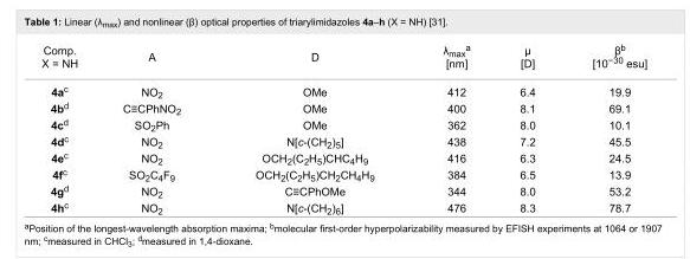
<table><tbody><tr><td>Comp. X = NH</td><td>A</td><td>D</td><td>λ<sub>max</sub><sup>a</sup> [nm]</td><td>μ [D]</td><td>β<sup>b</sup> [10<sup>−30</sup> esu]</td></tr><tr><td>4a<sup>c</sup></td><td>NO<sub>2</sub></td><td>OMe</td><td>412</td><td>6.4</td><td>19.9</td></tr><tr><td>4b<sup>d</sup></td><td>C≡CPhNO<sub>2</sub></td><td>OMe</td><td>400</td><td>8.1</td><td>69.1</td></tr><tr><td>4c<sup>d</sup></td><td>SO<sub>2</sub>Ph</td><td>OMe</td><td>362</td><td>8.0</td><td>10.1</td></tr><tr><td>4d<sup>c</sup></td><td>NO<sub>2</sub></td><td>N[c-(CH<sub>2</sub>)<sub>5</sub>]</td><td>438</td><td>7.2</td><td>45.5</td></tr><tr><td>4e<sup>c</sup></td><td>NO<sub>2</sub></td><td>OCH<sub>2</sub>(C<sub>2</sub>H<sub>5</sub>)CHC<sub>4</sub>H<sub>9</sub></td><td>416</td><td>6.3</td><td>24.5</td></tr><tr><td>4f<sup>c</sup></td><td>SO<sub>2</sub>C<sub>4</sub>F<sub>9</sub></td><td>OCH<sub>2</sub>(C<sub>2</sub>H<sub>5</sub>)CH<sub>2</sub>CH<sub>4</sub>H<sub>9</sub></td><td>384</td><td>6.5</td><td>13.9</td></tr><tr><td>4g<sup>d</sup></td><td>NO<sub>2</sub></td><td>C≡CPhOMe</td><td>344</td><td>8.0</td><td>53.2</td></tr><tr><td>4h<sup>c</sup></td><td>NO<sub>2</sub></td><td>N[c-(CH<sub>2</sub>)<sub>6</sub>]</td><td>476</td><td>8.3</td><td>78.7</td></tr></tbody></table>